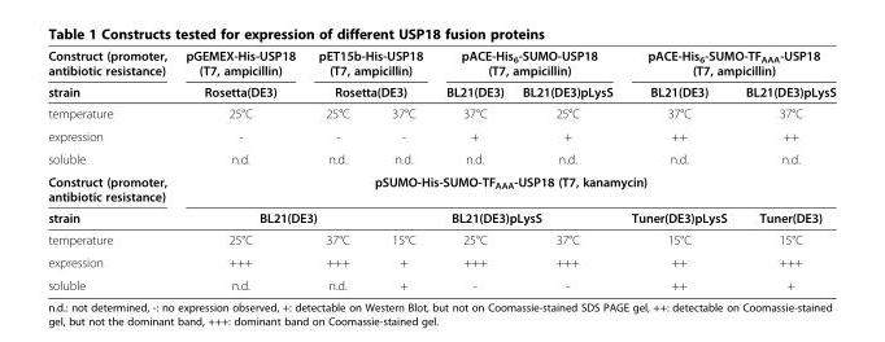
<table><thead><tr><td rowspan="3">Construct (promoter, antibiotic resistance) strain temperature</td><td rowspan="3">pGEMEX-His-USP18 (T7, ampicillin) Rosetta(DE3) 25°C</td><td rowspan="2" colspan="2">pET15b-His-USP18 (T7, ampicillin) Rosetta(DE3)</td><td colspan="2">pACE-His<sub>6</sub>-SUMO-USP18 (T7, ampicillin)</td><td colspan="2">pACE-His<sub>6</sub>-SUMO-TF<sub>AAA</sub>-USP18 (T7, ampicillin)</td></tr><tr><td rowspan="2">BL21(DE3) 37°C</td><td rowspan="2">BL21(DE3)pLysS 25°C</td><td rowspan="2">BL21(DE3) 37°C</td><td rowspan="2">BL21(DE3)pLysS 37°C</td></tr><tr><td>25°C</td><td>37°C</td></tr></thead><tbody><tr><td>expression</td><td>-</td><td>-</td><td>-</td><td>+</td><td>+</td><td>++</td><td>++</td></tr><tr><td>soluble</td><td>n.d.</td><td>n.d.</td><td>n.d.</td><td>n.d.</td><td>n.d.</td><td>n.d.</td><td>n.d.</td></tr><tr><td>Construct (promoter, antibiotic resistance)</td><td colspan="7">pSUMO-His-SUMO-TF<sub>AAA</sub>-USP18 (T7, kanamycin)</td></tr><tr><td>strain</td><td colspan="2">BL21(DE3)</td><td colspan="3">BL21(DE3)pLysS</td><td>Tuner(DE3)pLysS</td><td>Tuner(DE3)</td></tr><tr><td>temperature</td><td>25°C</td><td>37°C</td><td>15°C</td><td>25°C</td><td>37°C</td><td>15°C</td><td>15°C</td></tr><tr><td>expression</td><td>+++</td><td>+++</td><td>+</td><td>+++</td><td>+++</td><td>++</td><td>+++</td></tr><tr><td>soluble</td><td>n.d.</td><td>n.d.</td><td>+</td><td>-</td><td>-</td><td>++</td><td>+</td></tr></tbody></table>